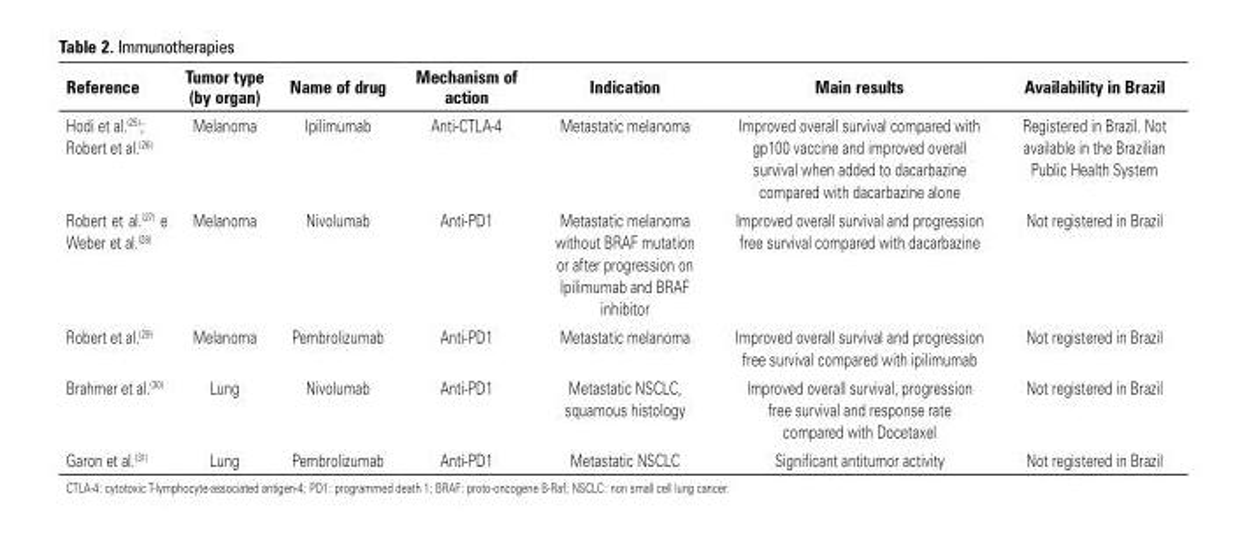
<table><thead><tr><td>Reference</td><td>Tumor type (by organ)</td><td>Name of drug</td><td>Mechanism of action</td><td>Indication</td><td>Main results</td><td>Availability in Brazil</td></tr></thead><tbody><tr><td>Hodi et al.<sup>(25)</sup>; Robert et al.<sup>(26)</sup></td><td>Melanoma</td><td>Ipilimumab</td><td>Anti-CTLA-4</td><td>Metastatic melanoma</td><td>Improved overall survival compared with gp100 vaccine and improved overall survival when added to dacarbazine compared with dacarbazine alone</td><td>Registered in Brazil. Not available in the Brazilian Public Health System</td></tr><tr><td>Robert et al.<sup>(27)</sup> e Weber et al.<sup>(28)</sup></td><td>Melanoma</td><td>Nivolumab</td><td>Anti-PD1</td><td>Metastatic melanoma without BRAF mutation or after progression on Ipilimumab and BRAF inhibitor</td><td>Improved overall survival and progression free survival compared with dacarbazine</td><td>Not registered in Brazil</td></tr><tr><td>Robert et al.<sup>(29)</sup></td><td>Melanoma</td><td>Pembrolizumab</td><td>Anti-PD1</td><td>Metastatic melanoma</td><td>Improved overall survival and progression free survival compared with ipilimumab</td><td>Not registered in Brazil</td></tr><tr><td>Brahmer et al.<sup>(30)</sup></td><td>Lung</td><td>Nivolumab</td><td>Anti-PD1</td><td>Metastatic NSCLC, squamous histology</td><td>Improved overall survival, progression free survival and response rate compared with Docetaxel</td><td>Not registered in Brazil</td></tr><tr><td>Garon et al.<sup>(31)</sup></td><td>Lung</td><td>Pembrolizumab</td><td>Anti-PD1</td><td>Metastatic NSCLC</td><td>Significant antitumor activity</td><td>Not registered in Brazil</td></tr></tbody></table>